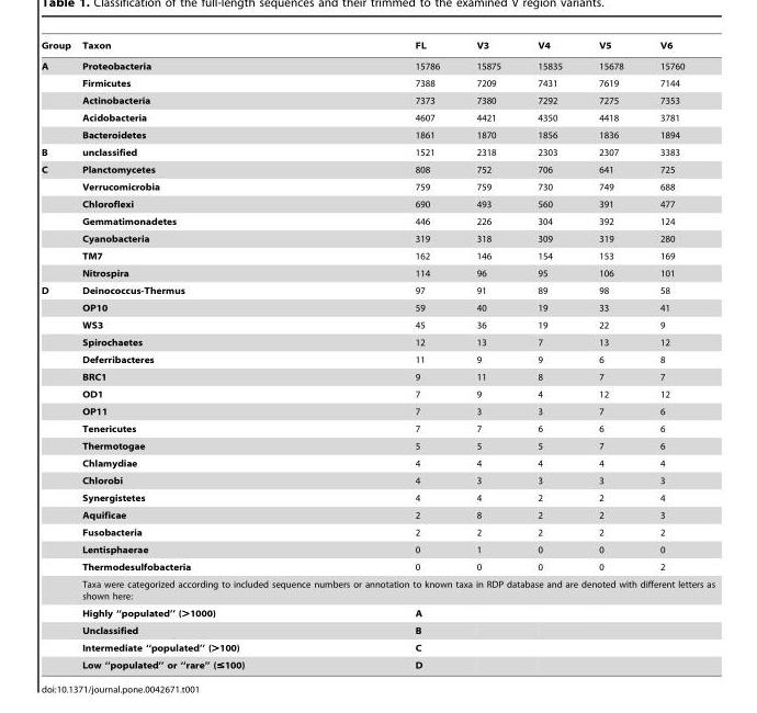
<table><thead><tr><td>Group</td><td>Taxon</td><td>FL</td><td>V3</td><td>V4</td><td>V5</td><td>V6</td></tr></thead><tbody><tr><td rowspan="5">A</td><td>Proteobacteria</td><td>15786</td><td>15875</td><td>15835</td><td>15678</td><td>15760</td></tr><tr><td>Firmicutes</td><td>7388</td><td>7209</td><td>7431</td><td>7619</td><td>7144</td></tr><tr><td>Actinobacteria</td><td>7373</td><td>7380</td><td>7292</td><td>7275</td><td>7353</td></tr><tr><td>Acidobacteria</td><td>4607</td><td>4421</td><td>4350</td><td>4418</td><td>3781</td></tr><tr><td>Bacteroidetes</td><td>1861</td><td>1870</td><td>1856</td><td>1836</td><td>1894</td></tr><tr><td>B</td><td>unclassified</td><td>1521</td><td>2318</td><td>2303</td><td>2307</td><td>3383</td></tr><tr><td rowspan="7">C</td><td>Planctomycetes</td><td>808</td><td>752</td><td>706</td><td>641</td><td>725</td></tr><tr><td>Verrucomicrobia</td><td>759</td><td>759</td><td>730</td><td>749</td><td>688</td></tr><tr><td>Chloroflexi</td><td>690</td><td>493</td><td>560</td><td>391</td><td>477</td></tr><tr><td>Gemmatimonadetes</td><td>446</td><td>226</td><td>304</td><td>392</td><td>124</td></tr><tr><td>Cyanobacteria</td><td>319</td><td>318</td><td>309</td><td>319</td><td>280</td></tr><tr><td>TM7</td><td>162</td><td>146</td><td>154</td><td>153</td><td>169</td></tr><tr><td>Nitrospira</td><td>114</td><td>96</td><td>95</td><td>106</td><td>101</td></tr><tr><td rowspan="22">D</td><td>Deinococcus-Thermus</td><td>97</td><td>91</td><td>89</td><td>98</td><td>58</td></tr><tr><td>OP10</td><td>59</td><td>40</td><td>19</td><td>33</td><td>41</td></tr><tr><td>WS3</td><td>45</td><td>36</td><td>19</td><td>22</td><td>9</td></tr><tr><td>Spirochaetes</td><td>12</td><td>13</td><td>7</td><td>13</td><td>12</td></tr><tr><td>Deferribacteres</td><td>11</td><td>9</td><td>9</td><td>6</td><td>8</td></tr><tr><td>BRC1</td><td>9</td><td>11</td><td>8</td><td>7</td><td>7</td></tr><tr><td>OD1</td><td>7</td><td>9</td><td>4</td><td>12</td><td>12</td></tr><tr><td>OP11</td><td>7</td><td>3</td><td>3</td><td>7</td><td>6</td></tr><tr><td>Tenericutes</td><td>7</td><td>7</td><td>6</td><td>6</td><td>6</td></tr><tr><td>Thermotogae</td><td>5</td><td>5</td><td>5</td><td>7</td><td>6</td></tr><tr><td>Chlamydiae</td><td>4</td><td>4</td><td>4</td><td>4</td><td>4</td></tr><tr><td>Chlorobi</td><td>4</td><td>3</td><td>3</td><td>3</td><td>3</td></tr><tr><td>Synergistetes</td><td>4</td><td>4</td><td>2</td><td>2</td><td>4</td></tr><tr><td>Aquificae</td><td>2</td><td>8</td><td>2</td><td>2</td><td>3</td></tr><tr><td>Fusobacteria</td><td>2</td><td>2</td><td>2</td><td>2</td><td>2</td></tr><tr><td>Lentisphaerae</td><td>0</td><td>1</td><td>0</td><td>0</td><td>0</td></tr><tr><td>Thermodesulfobacteria</td><td>0</td><td>0</td><td>0</td><td>0</td><td>2</td></tr><tr><td colspan="6">Taxa were categorized according to included sequence numbers or annotation to known taxa in RDP database and are denoted with different letters as shown here:</td></tr><tr><td>Highly ‘‘populated’’ (.1000)</td><td>A</td><td></td><td></td><td></td><td></td></tr><tr><td>Unclassified</td><td>B</td><td></td><td></td><td></td><td></td></tr><tr><td>Intermediate ‘‘populated’’ (.100)</td><td>C</td><td></td><td></td><td></td><td></td></tr><tr><td>Low ‘‘populated’’ or ‘‘rare’’ (#100)</td><td>D</td><td></td><td></td><td></td><td></td></tr></tbody></table>